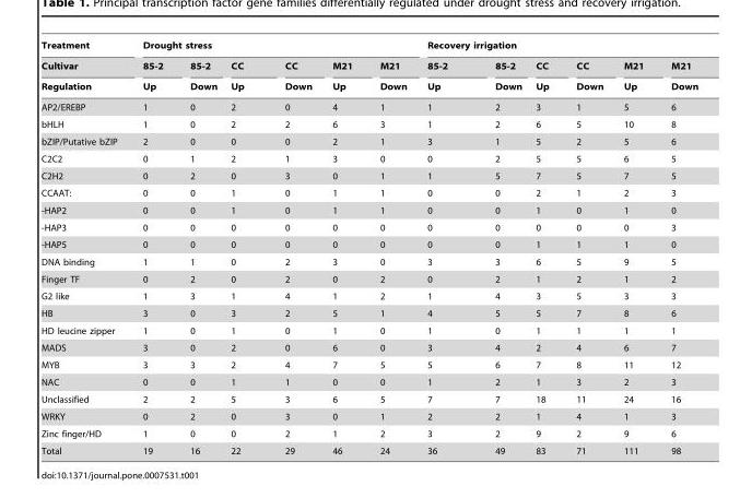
<table><thead><tr><td rowspan="3">Treatment Cultivar Regulation</td><td colspan="6">Drought stress</td><td colspan="6">Recovery irrigation</td></tr><tr><td rowspan="2">85-2 Up</td><td rowspan="2">85-2 Down</td><td rowspan="2">CC Up</td><td rowspan="2">CC Down</td><td rowspan="2">M21 Up</td><td rowspan="2">M21 Down</td><td rowspan="2">85-2 Up</td><td rowspan="2">85-2 Down</td><td rowspan="2">CC Up</td><td rowspan="2">CC Down</td><td rowspan="2">M21 Up</td><td rowspan="2">M21 Down</td></tr><tr></tr></thead><tbody><tr><td>AP2/EREBP</td><td>1</td><td>0</td><td>2</td><td>0</td><td>4</td><td>1</td><td>1</td><td>2</td><td>3</td><td>1</td><td>5</td><td>6</td></tr><tr><td>bHLH</td><td>1</td><td>0</td><td>2</td><td>2</td><td>6</td><td>3</td><td>1</td><td>2</td><td>6</td><td>5</td><td>10</td><td>8</td></tr><tr><td>bZIP/Putative bZIP</td><td>2</td><td>0</td><td>0</td><td>0</td><td>2</td><td>1</td><td>3</td><td>1</td><td>5</td><td>2</td><td>5</td><td>6</td></tr><tr><td>C2C2</td><td>0</td><td>1</td><td>2</td><td>1</td><td>3</td><td>0</td><td>0</td><td>2</td><td>5</td><td>5</td><td>6</td><td>5</td></tr><tr><td>C2H2</td><td>0</td><td>2</td><td>0</td><td>3</td><td>0</td><td>1</td><td>1</td><td>5</td><td>7</td><td>5</td><td>7</td><td>5</td></tr><tr><td>CCAAT:</td><td>0</td><td>0</td><td>1</td><td>0</td><td>1</td><td>1</td><td>0</td><td>0</td><td>2</td><td>1</td><td>2</td><td>3</td></tr><tr><td>-HAP2</td><td>0</td><td>0</td><td>1</td><td>0</td><td>1</td><td>1</td><td>0</td><td>0</td><td>1</td><td>0</td><td>1</td><td>0</td></tr><tr><td>-HAP3</td><td>0</td><td>0</td><td>0</td><td>0</td><td>0</td><td>0</td><td>0</td><td>0</td><td>0</td><td>0</td><td>0</td><td>3</td></tr><tr><td>-HAP5</td><td>0</td><td>0</td><td>0</td><td>0</td><td>0</td><td>0</td><td>0</td><td>0</td><td>1</td><td>1</td><td>1</td><td>0</td></tr><tr><td>DNA binding</td><td>1</td><td>1</td><td>0</td><td>2</td><td>3</td><td>0</td><td>3</td><td>3</td><td>6</td><td>5</td><td>9</td><td>5</td></tr><tr><td>Finger TF</td><td>0</td><td>2</td><td>0</td><td>2</td><td>0</td><td>2</td><td>0</td><td>2</td><td>1</td><td>2</td><td>1</td><td>2</td></tr><tr><td>G2 like</td><td>1</td><td>3</td><td>1</td><td>4</td><td>1</td><td>2</td><td>1</td><td>4</td><td>3</td><td>5</td><td>3</td><td>3</td></tr><tr><td>HB</td><td>3</td><td>0</td><td>3</td><td>2</td><td>5</td><td>1</td><td>4</td><td>5</td><td>5</td><td>7</td><td>8</td><td>6</td></tr><tr><td>HD leucine zipper</td><td>1</td><td>0</td><td>1</td><td>0</td><td>1</td><td>0</td><td>1</td><td>0</td><td>1</td><td>1</td><td>1</td><td>1</td></tr><tr><td>MADS</td><td>3</td><td>0</td><td>2</td><td>0</td><td>6</td><td>0</td><td>3</td><td>4</td><td>2</td><td>4</td><td>6</td><td>7</td></tr><tr><td>MYB</td><td>3</td><td>3</td><td>2</td><td>4</td><td>7</td><td>5</td><td>5</td><td>6</td><td>7</td><td>8</td><td>11</td><td>12</td></tr><tr><td>NAC</td><td>0</td><td>0</td><td>1</td><td>1</td><td>0</td><td>0</td><td>1</td><td>2</td><td>1</td><td>3</td><td>2</td><td>3</td></tr><tr><td>Unclassified</td><td>2</td><td>2</td><td>5</td><td>3</td><td>6</td><td>5</td><td>7</td><td>7</td><td>18</td><td>11</td><td>24</td><td>16</td></tr><tr><td>WRKY</td><td>0</td><td>2</td><td>0</td><td>3</td><td>0</td><td>1</td><td>2</td><td>2</td><td>1</td><td>4</td><td>1</td><td>3</td></tr><tr><td>Zinc finger/HD</td><td>1</td><td>0</td><td>0</td><td>2</td><td>1</td><td>2</td><td>3</td><td>2</td><td>9</td><td>2</td><td>9</td><td>6</td></tr><tr><td>Total</td><td>19</td><td>16</td><td>22</td><td>29</td><td>46</td><td>24</td><td>36</td><td>49</td><td>83</td><td>71</td><td>111</td><td>98</td></tr></tbody></table>